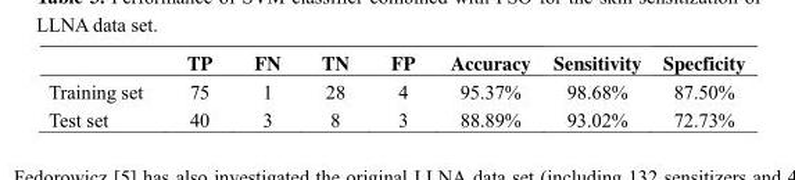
<table><thead><tr><td></td><td>TP</td><td>FN</td><td>TN</td><td>FP</td><td>Accuracy</td><td>Sensitivity</td><td>Specficity</td></tr></thead><tbody><tr><td>Training set</td><td>75</td><td>1</td><td>28</td><td>4</td><td>95.37%</td><td>98.68%</td><td>87.50%</td></tr><tr><td>Test set</td><td>40</td><td>3</td><td>8</td><td>3</td><td>88.89%</td><td>93.02%</td><td>72.73%</td></tr></tbody></table>